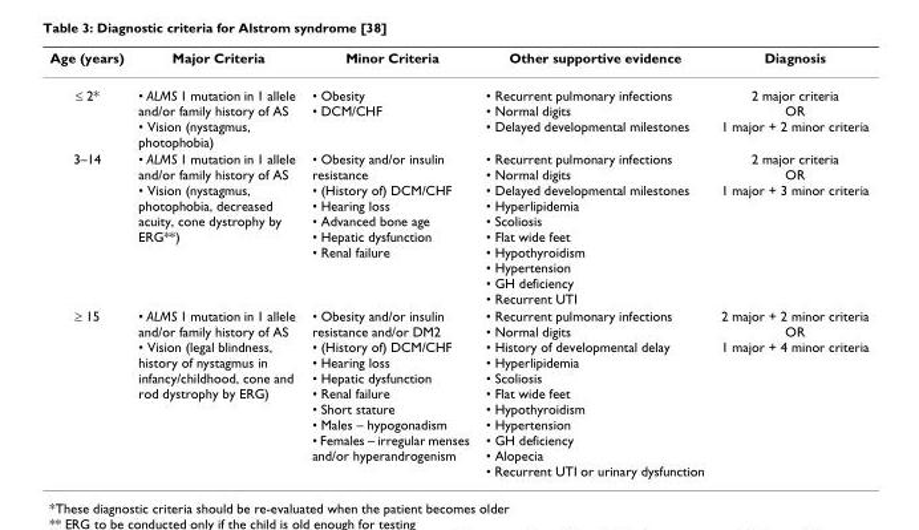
<table><thead><tr><td>Age (years)</td><td>Major Criteria</td><td>Minor Criteria</td><td>Other supportive evidence</td><td>Diagnosis</td></tr></thead><tbody><tr><td>≤ 2*</td><td>• ALMS 1 mutation in 1 allele and/or family history of AS • Vision (nystagmus, photophobia)</td><td>• Obesity • DCM/CHF</td><td>• Recurrent pulmonary infections • Normal digits • Delayed developmental milestones</td><td>2 major criteria OR 1 major + 2 minor criteria</td></tr><tr><td>3–14</td><td>• ALMS 1 mutation in 1 allele and/or family history of AS • Vision (nystagmus, photophobia, decreased acuity, cone dystrophy by ERG**)</td><td>• Obesity and/or insulin resistance • (History of) DCM/CHF • Hearing loss • Advanced bone age • Hepatic dysfunction • Renal failure</td><td>• Recurrent pulmonary infections • Normal digits • Delayed developmental milestones • Hyperlipidemia • Scoliosis • Flat wide feet • Hypothyroidism • Hypertension • GH deficiency • Recurrent UTI</td><td>2 major criteria OR 1 major + 3 minor criteria</td></tr><tr><td>≥ 15</td><td>• ALMS 1 mutation in 1 allele and/or family history of AS • Vision (legal blindness, history of nystagmus in infancy/childhood, cone and rod dystrophy by ERG)</td><td>• Obesity and/or insulin resistance and/or DM2 • (History of) DCM/CHF • Hearing loss • Hepatic dysfunction • Renal failure • Short stature • Males – hypogonadism • Females – irregular menses and/or hyperandrogenism</td><td>• Recurrent pulmonary infections • Normal digits • History of developmental delay • Hyperlipidemia • Scoliosis • Flat wide feet • Hypothyroidism • Hypertension • GH deficiency • Alopecia • Recurrent UTI or urinary dysfunction</td><td>2 major + 2 minor criteria OR 1 major + 4 minor criteria</td></tr></tbody></table>